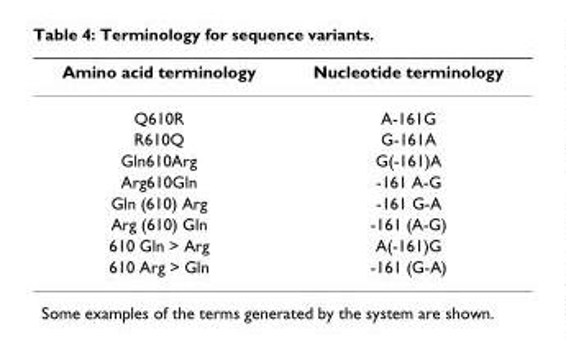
<table><thead><tr><td>Amino acid terminology</td><td>Nucleotide terminology</td></tr></thead><tbody><tr><td>Q610R</td><td>A-161G</td></tr><tr><td>R610Q</td><td>G-161A</td></tr><tr><td>Gln610Arg</td><td>G(-161)A</td></tr><tr><td>Arg610Gln</td><td>-161 A-G</td></tr><tr><td>Gln (610) Arg</td><td>-161 G-A</td></tr><tr><td>Arg (610) Gln</td><td>-161 (A-G)</td></tr><tr><td>610 Gln &gt; Arg</td><td>A(-161)G</td></tr><tr><td>610 Arg &gt; Gln</td><td>-161 (G-A)</td></tr></tbody></table>